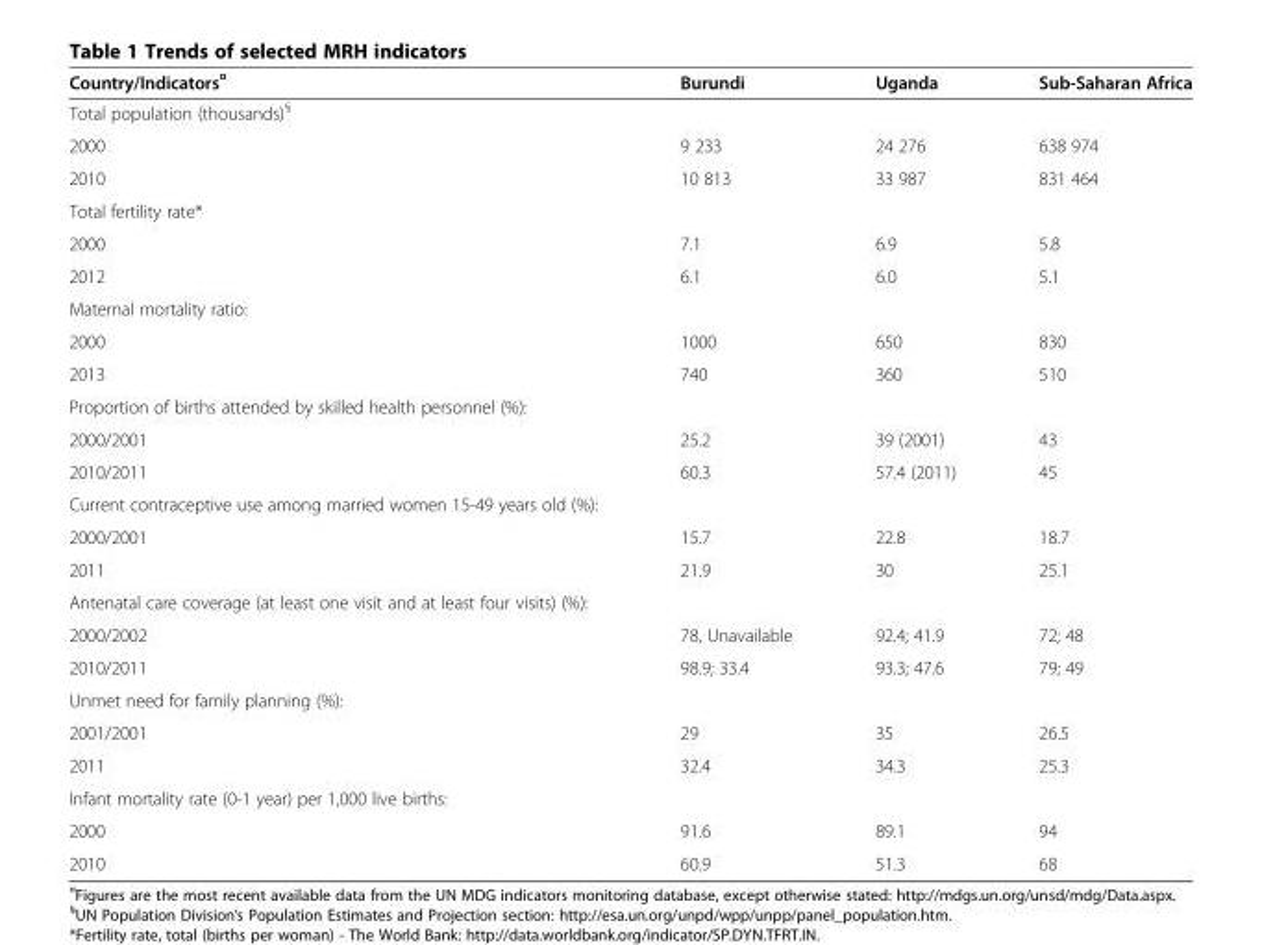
<table><thead><tr><td>Country/Indicators<sup>¤</sup></td><td>Burundi</td><td>Uganda</td><td>Sub-Saharan Africa</td></tr></thead><tbody><tr><td colspan="4">Total population (thousands)<sup>§</sup></td></tr><tr><td>2000</td><td>9 233</td><td>24 276</td><td>638 974</td></tr><tr><td>2010</td><td>10 813</td><td>33 987</td><td>831 464</td></tr><tr><td colspan="4">Total fertility rate*</td></tr><tr><td>2000</td><td>7.1</td><td>6.9</td><td>5.8</td></tr><tr><td>2012</td><td>6.1</td><td>6.0</td><td>5.1</td></tr><tr><td colspan="4">Maternal mortality ratio:</td></tr><tr><td>2000</td><td>1000</td><td>650</td><td>830</td></tr><tr><td>2013</td><td>740</td><td>360</td><td>510</td></tr><tr><td colspan="4">Proportion of births attended by skilled health personnel (%):</td></tr><tr><td>2000/2001</td><td>25.2</td><td>39 (2001)</td><td>43</td></tr><tr><td>2010/2011</td><td>60.3</td><td>57.4 (2011)</td><td>45</td></tr><tr><td colspan="4">Current contraceptive use among married women 15-49 years old (%):</td></tr><tr><td>2000/2001</td><td>15.7</td><td>22.8</td><td>18.7</td></tr><tr><td>2011</td><td>21.9</td><td>30</td><td>25.1</td></tr><tr><td colspan="4">Antenatal care coverage (at least one visit and at least four visits) (%):</td></tr><tr><td>2000/2002</td><td>78, Unavailable</td><td>92.4; 41.9</td><td>72; 48</td></tr><tr><td>2010/2011</td><td>98.9; 33.4</td><td>93.3; 47.6</td><td>79; 49</td></tr><tr><td colspan="4">Unmet need for family planning (%):</td></tr><tr><td>2001/2001</td><td>29</td><td>35</td><td>26.5</td></tr><tr><td>2011</td><td>32.4</td><td>34.3</td><td>25.3</td></tr><tr><td colspan="4">Infant mortality rate (0-1 year) per 1,000 live births:</td></tr><tr><td>2000</td><td>91.6</td><td>89.1</td><td>94</td></tr><tr><td>2010</td><td>60.9</td><td>51.3</td><td>68</td></tr></tbody></table>